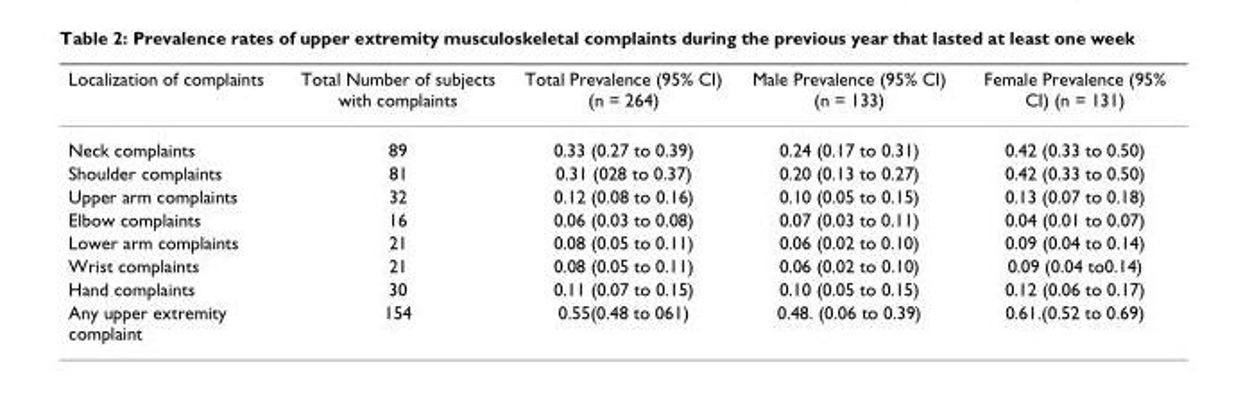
<table><thead><tr><td>Localization of complaints</td><td>Total Number of subjects with complaints</td><td>Total Prevalence (95% CI) (n = 264)</td><td>Male Prevalence (95% CI) (n = 133)</td><td>Female Prevalence (95% CI) (n = 131)</td></tr></thead><tbody><tr><td>Neck complaints</td><td>89</td><td>0.33 (0.27 to 0.39)</td><td>0.24 (0.17 to 0.31)</td><td>0.42 (0.33 to 0.50)</td></tr><tr><td>Shoulder complaints</td><td>81</td><td>0.31 (028 to 0.37)</td><td>0.20 (0.13 to 0.27)</td><td>0.42 (0.33 to 0.50)</td></tr><tr><td>Upper arm complaints</td><td>32</td><td>0.12 (0.08 to 0.16)</td><td>0.10 (0.05 to 0.15)</td><td>0.13 (0.07 to 0.18)</td></tr><tr><td>Elbow complaints</td><td>16</td><td>0.06 (0.03 to 0.08)</td><td>0.07 (0.03 to 0.11)</td><td>0.04 (0.01 to 0.07)</td></tr><tr><td>Lower arm complaints</td><td>21</td><td>0.08 (0.05 to 0.11)</td><td>0.06 (0.02 to 0.10)</td><td>0.09 (0.04 to 0.14)</td></tr><tr><td>Wrist complaints</td><td>21</td><td>0.08 (0.05 to 0.11)</td><td>0.06 (0.02 to 0.10)</td><td>0.09 (0.04 to0.14)</td></tr><tr><td>Hand complaints</td><td>30</td><td>0.11 (0.07 to 0.15)</td><td>0.10 (0.05 to 0.15)</td><td>0.12 (0.06 to 0.17)</td></tr><tr><td>Any upper extremity complaint</td><td>154</td><td>0.55(0.48 to 061)</td><td>0.48. (0.06 to 0.39)</td><td>0.61.(0.52 to 0.69)</td></tr></tbody></table>